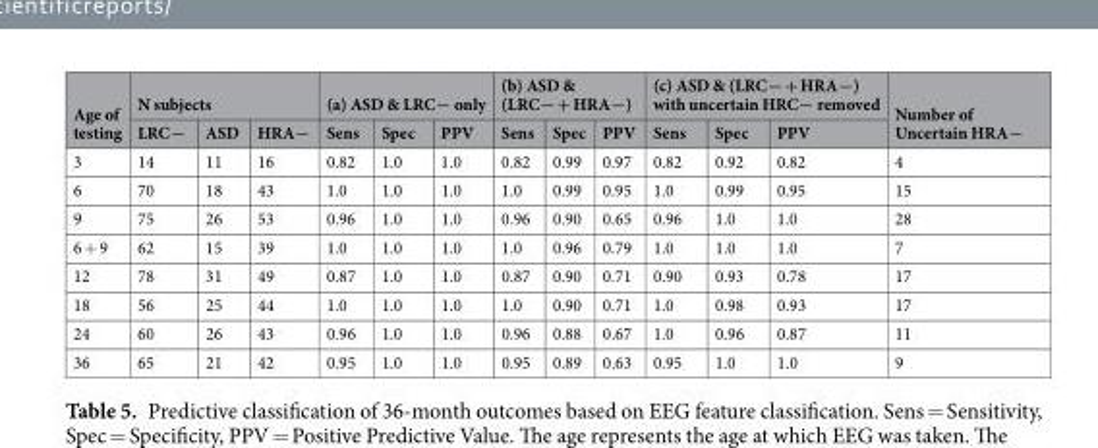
<table><thead><tr><td rowspan="2">Age of testing</td><td colspan="3">N subjects</td><td colspan="3">(a) ASD &amp; LRC− only</td><td colspan="3">(b) ASD &amp; (LRC− + HRA−)</td><td colspan="3">(c) ASD &amp; (LRC− + HRA−) with uncertain HRC− removed</td><td rowspan="2">Number of Uncertain HRA−</td></tr><tr><td>LRC−</td><td>ASD</td><td>HRA−</td><td>Sens</td><td>Spec</td><td>PPV</td><td>Sens</td><td>Spec</td><td>PPV</td><td>Sens</td><td>Spec</td><td>PPV</td></tr></thead><tbody><tr><td>3</td><td>14</td><td>11</td><td>16</td><td>0.82</td><td>1.0</td><td>1.0</td><td>0.82</td><td>0.99</td><td>0.97</td><td>0.82</td><td>0.92</td><td>0.82</td><td>4</td></tr><tr><td>6</td><td>70</td><td>18</td><td>43</td><td>1.0</td><td>1.0</td><td>1.0</td><td>1.0</td><td>0.99</td><td>0.95</td><td>1.0</td><td>0.99</td><td>0.95</td><td>15</td></tr><tr><td>9</td><td>75</td><td>26</td><td>53</td><td>0.96</td><td>1.0</td><td>1.0</td><td>0.96</td><td>0.90</td><td>0.65</td><td>0.96</td><td>1.0</td><td>1.0</td><td>28</td></tr><tr><td>6 + 9</td><td>62</td><td>15</td><td>39</td><td>1.0</td><td>1.0</td><td>1.0</td><td>1.0</td><td>0.96</td><td>0.79</td><td>1.0</td><td>1.0</td><td>1.0</td><td>7</td></tr><tr><td>12</td><td>78</td><td>31</td><td>49</td><td>0.87</td><td>1.0</td><td>1.0</td><td>0.87</td><td>0.90</td><td>0.71</td><td>0.90</td><td>0.93</td><td>0.78</td><td>17</td></tr><tr><td>18</td><td>56</td><td>25</td><td>44</td><td>1.0</td><td>1.0</td><td>1.0</td><td>1.0</td><td>0.90</td><td>0.71</td><td>1.0</td><td>0.98</td><td>0.93</td><td>17</td></tr><tr><td>24</td><td>60</td><td>26</td><td>43</td><td>0.96</td><td>1.0</td><td>1.0</td><td>0.96</td><td>0.88</td><td>0.67</td><td>1.0</td><td>0.96</td><td>0.87</td><td>11</td></tr><tr><td>36</td><td>65</td><td>21</td><td>42</td><td>0.95</td><td>1.0</td><td>1.0</td><td>0.95</td><td>0.89</td><td>0.63</td><td>0.95</td><td>1.0</td><td>1.0</td><td>9</td></tr></tbody></table>